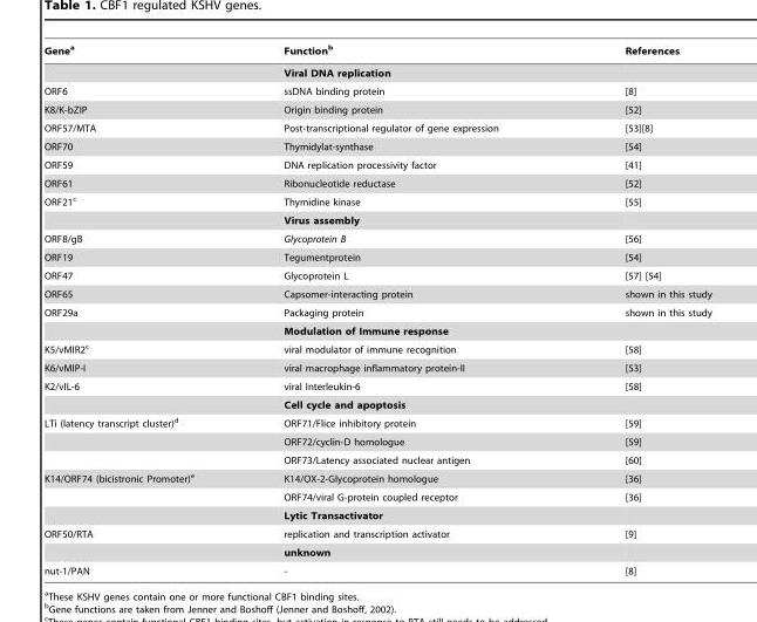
<table><thead><tr><td>Gene<sup>a</sup></td><td>Function<sup>b</sup></td><td>References</td></tr></thead><tbody><tr><td></td><td>Viral DNA replication</td><td></td></tr><tr><td>ORF6</td><td>ssDNA binding protein</td><td>[8]</td></tr><tr><td>K8/K-bZIP</td><td>Origin binding protein</td><td>[52]</td></tr><tr><td>ORF57/MTA</td><td>Post-transcriptional regulator of gene expression</td><td>[53][8]</td></tr><tr><td>ORF70</td><td>Thymidylat-synthase</td><td>[54]</td></tr><tr><td>ORF59</td><td>DNA replication processivity factor</td><td>[41]</td></tr><tr><td>ORF61</td><td>Ribonucleotide reductase</td><td>[52]</td></tr><tr><td rowspan="2">ORF21<sup>c</sup></td><td>Thymidine kinase</td><td>[55]</td></tr><tr><td>Virus assembly</td><td></td></tr><tr><td>ORF8/gB</td><td>Glycoprotein B</td><td>[56]</td></tr><tr><td>ORF19</td><td>Tegumentprotein</td><td>[54]</td></tr><tr><td>ORF47</td><td>Glycoprotein L</td><td>[57] [54]</td></tr><tr><td>ORF65</td><td>Capsomer-interacting protein</td><td>shown in this study</td></tr><tr><td rowspan="2">ORF29a</td><td>Packaging protein</td><td>shown in this study</td></tr><tr><td>Modulation of Immune response</td><td></td></tr><tr><td>K5/vMIR2<sup>c</sup></td><td>viral modulator of immune recognition</td><td>[58]</td></tr><tr><td>K6/vMIP-I</td><td>viral macrophage inflammatory protein-II</td><td>[53]</td></tr><tr><td rowspan="2">K2/vIL-6</td><td>viral Interleukin-6</td><td>[58]</td></tr><tr><td>Cell cycle and apoptosis</td><td></td></tr><tr><td rowspan="3">LTi (latency transcript cluster)<sup>d</sup></td><td>ORF71/Flice inhibitory protein</td><td>[59]</td></tr><tr><td>ORF72/cyclin-D homologue</td><td>[59]</td></tr><tr><td>ORF73/Latency associated nuclear antigen</td><td>[60]</td></tr><tr><td rowspan="3">K14/ORF74 (bicistronic Promoter)<sup>e</sup></td><td>K14/OX-2-Glycoprotein homologue</td><td>[36]</td></tr><tr><td>ORF74/viral G-protein coupled receptor</td><td>[36]</td></tr><tr><td>Lytic Transactivator</td><td></td></tr><tr><td rowspan="2">ORF50/RTA</td><td>replication and transcription activator</td><td>[9]</td></tr><tr><td>unknown</td><td></td></tr><tr><td>nut-1/PAN</td><td>-</td><td>[8]</td></tr></tbody></table>